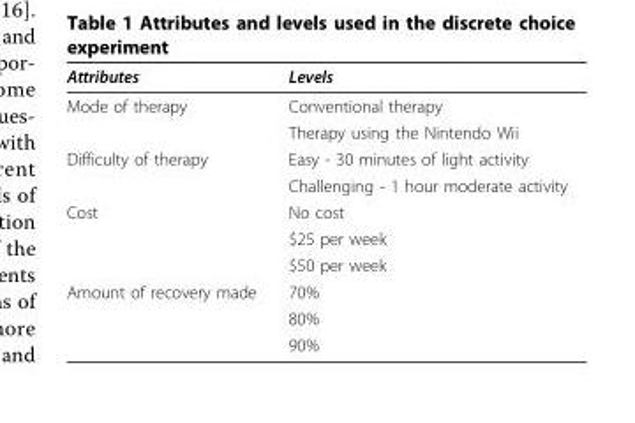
<table><thead><tr><td>Attributes</td><td>Levels</td></tr></thead><tbody><tr><td rowspan="2">Mode of therapy</td><td>Conventional therapy</td></tr><tr><td>Therapy using the Nintendo Wii</td></tr><tr><td rowspan="2">Difficulty of therapy</td><td>Easy - 30 minutes of light activity</td></tr><tr><td>Challenging - 1 hour moderate activity</td></tr><tr><td rowspan="3">Cost</td><td>No cost</td></tr><tr><td>$25 per week</td></tr><tr><td>$50 per week</td></tr><tr><td rowspan="3">Amount of recovery made</td><td>70%</td></tr><tr><td>80%</td></tr><tr><td>90%</td></tr></tbody></table>